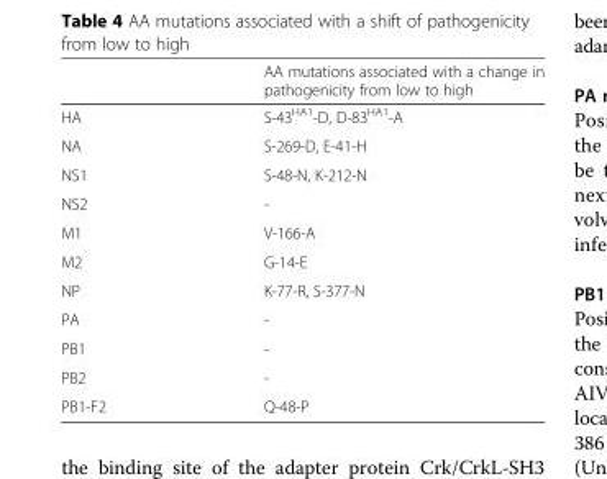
<table><thead><tr><td></td><td>AA mutations associated with a change in pathogenicity from low to high</td></tr></thead><tbody><tr><td>HA</td><td>S-43<sup>HA1</sup>-D, D-83<sup>HA1</sup>-A</td></tr><tr><td>NA</td><td>S-269-D, E-41-H</td></tr><tr><td>NS1</td><td>S-48-N, K-212-N</td></tr><tr><td>NS2</td><td>-</td></tr><tr><td>M1</td><td>V-166-A</td></tr><tr><td>M2</td><td>G-14-E</td></tr><tr><td>NP</td><td>K-77-R, S-377-N</td></tr><tr><td>PA</td><td>-</td></tr><tr><td>PB1</td><td>-</td></tr><tr><td>PB2</td><td>-</td></tr><tr><td>PB1-F2</td><td>Q-48-P</td></tr></tbody></table>